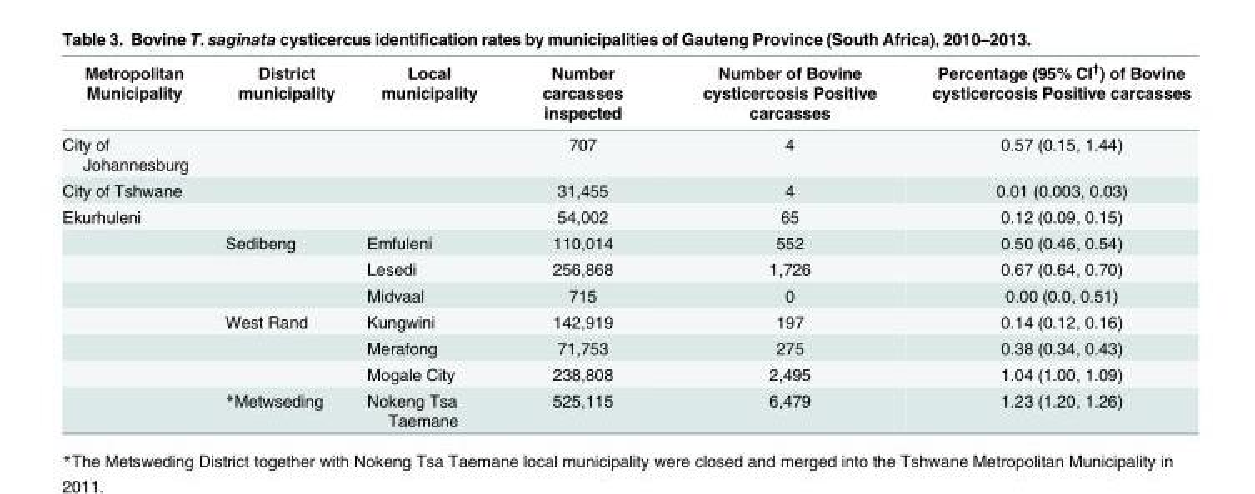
<table><thead><tr><td>Metropolitan Municipality</td><td>District municipality</td><td>Local municipality</td><td>Number carcasses inspected</td><td>Number of Bovine cysticercosis Positive carcasses</td><td>Percentage (95% CI<sup>†</sup>) of Bovine cysticercosis Positive carcasses</td></tr></thead><tbody><tr><td>City of Johannesburg</td><td></td><td></td><td>707</td><td>4</td><td>0.57 (0.15, 1.44)</td></tr><tr><td>City of Tshwane</td><td></td><td></td><td>31,455</td><td>4</td><td>0.01 (0.003, 0.03)</td></tr><tr><td rowspan="8">Ekurhuleni</td><td></td><td></td><td>54,002</td><td>65</td><td>0.12 (0.09, 0.15)</td></tr><tr><td>Sedibeng</td><td>Emfuleni</td><td>110,014</td><td>552</td><td>0.50 (0.46, 0.54)</td></tr><tr><td></td><td>Lesedi</td><td>256,868</td><td>1,726</td><td>0.67 (0.64, 0.70)</td></tr><tr><td></td><td>Midvaal</td><td>715</td><td>0</td><td>0.00 (0.0, 0.51)</td></tr><tr><td>West Rand</td><td>Kungwini</td><td>142,919</td><td>197</td><td>0.14 (0.12, 0.16)</td></tr><tr><td></td><td>Merafong</td><td>71,753</td><td>275</td><td>0.38 (0.34, 0.43)</td></tr><tr><td></td><td>Mogale City</td><td>238,808</td><td>2,495</td><td>1.04 (1.00, 1.09)</td></tr><tr><td>*Metwseding</td><td>Nokeng Tsa Taemane</td><td>525,115</td><td>6,479</td><td>1.23 (1.20, 1.26)</td></tr></tbody></table>